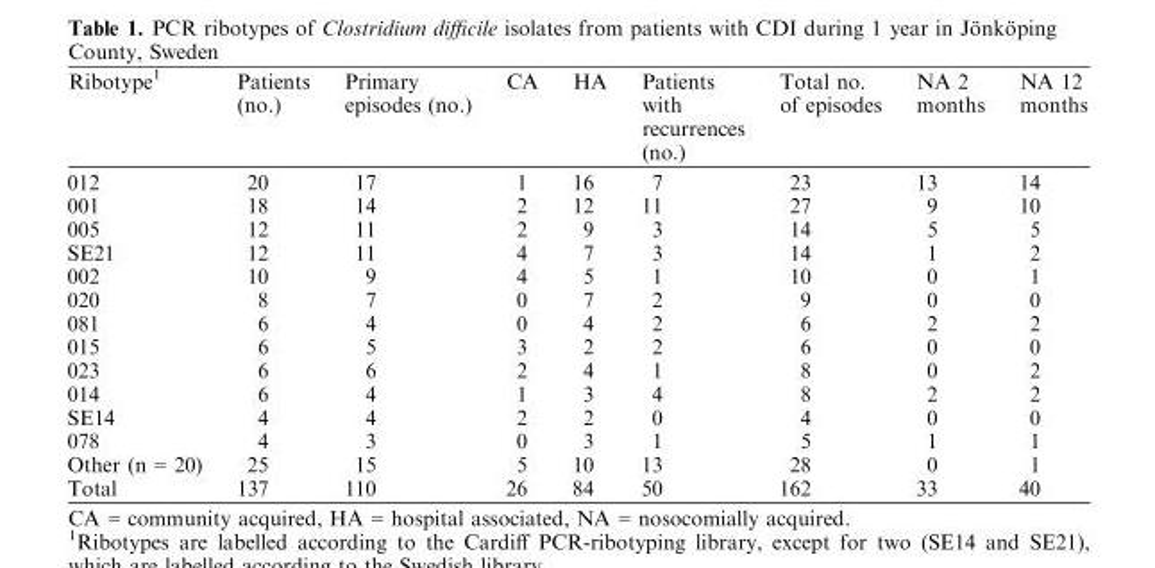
<table><thead><tr><td>Ribotype<sup>1</sup></td><td>Patients (no.)</td><td>Primary episodes (no.)</td><td>CA</td><td>HA</td><td>Patients with recurrences (no.)</td><td>Total no. of episodes</td><td>NA 2 months</td><td>NA 12 months</td></tr></thead><tbody><tr><td>012</td><td>20</td><td>17</td><td>1</td><td>16</td><td>7</td><td>23</td><td>13</td><td>14</td></tr><tr><td>001</td><td>18</td><td>14</td><td>2</td><td>12</td><td>11</td><td>27</td><td>9</td><td>10</td></tr><tr><td>005</td><td>12</td><td>11</td><td>2</td><td>9</td><td>3</td><td>14</td><td>5</td><td>5</td></tr><tr><td>SE21</td><td>12</td><td>11</td><td>4</td><td>7</td><td>3</td><td>14</td><td>1</td><td>2</td></tr><tr><td>002</td><td>10</td><td>9</td><td>4</td><td>5</td><td>1</td><td>10</td><td>0</td><td>1</td></tr><tr><td>020</td><td>8</td><td>7</td><td>0</td><td>7</td><td>2</td><td>9</td><td>0</td><td>0</td></tr><tr><td>081</td><td>6</td><td>4</td><td>0</td><td>4</td><td>2</td><td>6</td><td>2</td><td>2</td></tr><tr><td>015</td><td>6</td><td>5</td><td>3</td><td>2</td><td>2</td><td>6</td><td>0</td><td>0</td></tr><tr><td>023</td><td>6</td><td>6</td><td>2</td><td>4</td><td>1</td><td>8</td><td>0</td><td>2</td></tr><tr><td>014</td><td>6</td><td>4</td><td>1</td><td>3</td><td>4</td><td>8</td><td>2</td><td>2</td></tr><tr><td>SE14</td><td>4</td><td>4</td><td>2</td><td>2</td><td>0</td><td>4</td><td>0</td><td>0</td></tr><tr><td>078</td><td>4</td><td>3</td><td>0</td><td>3</td><td>1</td><td>5</td><td>1</td><td>1</td></tr><tr><td>Other (n = 20)</td><td>25</td><td>15</td><td>5</td><td>10</td><td>13</td><td>28</td><td>0</td><td>1</td></tr><tr><td>Total</td><td>137</td><td>110</td><td>26</td><td>84</td><td>50</td><td>162</td><td>33</td><td>40</td></tr></tbody></table>